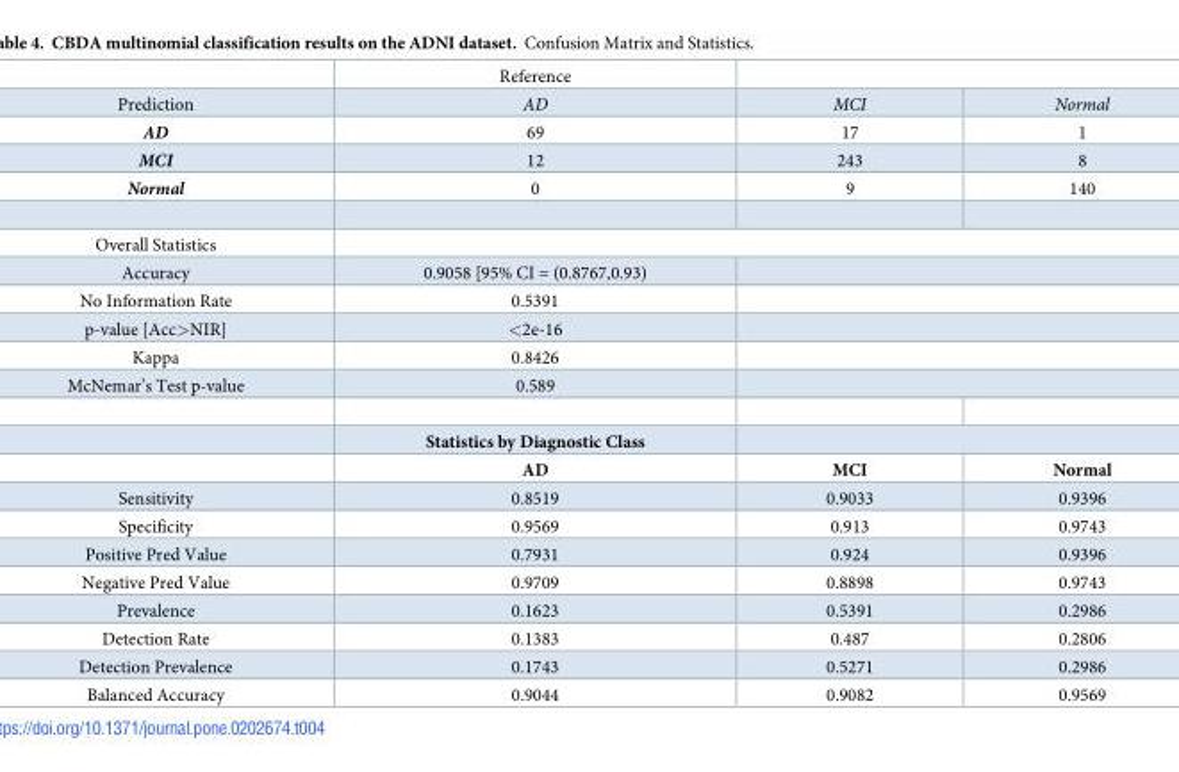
<table><thead><tr><td></td><td>Reference</td><td></td><td></td></tr></thead><tbody><tr><td>Prediction</td><td>AD</td><td>MCI</td><td>Normal</td></tr><tr><td>AD</td><td>69</td><td>17</td><td>1</td></tr><tr><td>MCI</td><td>12</td><td>243</td><td>8</td></tr><tr><td>Normal</td><td>0</td><td>9</td><td>140</td></tr><tr><td colspan="4">Overall Statistics</td></tr><tr><td>Accuracy</td><td>0.9058 [95% CI = (0.8767,0.93)</td><td colspan="2"></td></tr><tr><td>No Information Rate</td><td>0.5391</td><td colspan="2"></td></tr><tr><td>p-value [Acc&gt;NIR]</td><td>&lt;2e-16</td><td colspan="2"></td></tr><tr><td>Kappa</td><td>0.8426</td><td colspan="2"></td></tr><tr><td rowspan="3">McNemar’s Test p-value</td><td>0.589</td><td colspan="2"></td></tr><tr><td>Statistics by Diagnostic Class</td><td colspan="2"></td></tr><tr><td>AD</td><td>MCI</td><td>Normal</td></tr><tr><td>Sensitivity</td><td>0.8519</td><td>0.9033</td><td>0.9396</td></tr><tr><td>Specificity</td><td>0.9569</td><td>0.913</td><td>0.9743</td></tr><tr><td>Positive Pred Value</td><td>0.7931</td><td>0.924</td><td>0.9396</td></tr><tr><td>Negative Pred Value</td><td>0.9709</td><td>0.8898</td><td>0.9743</td></tr><tr><td>Prevalence</td><td>0.1623</td><td>0.5391</td><td>0.2986</td></tr><tr><td>Detection Rate</td><td>0.1383</td><td>0.487</td><td>0.2806</td></tr><tr><td>Detection Prevalence</td><td>0.1743</td><td>0.5271</td><td>0.2986</td></tr><tr><td>Balanced Accuracy</td><td>0.9044</td><td>0.9082</td><td>0.9569</td></tr></tbody></table>